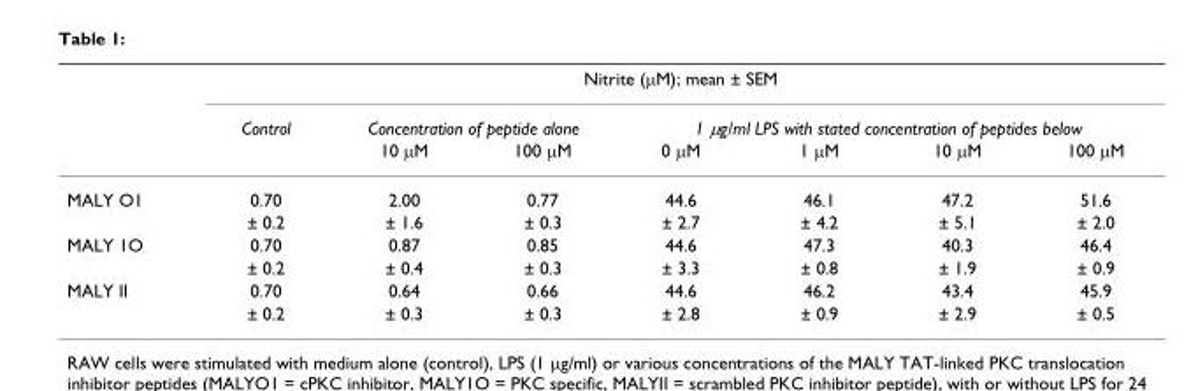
<table><thead><tr><td rowspan="3"></td><td colspan="7">Nitrite (μM); mean ± SEM</td></tr><tr><td rowspan="2">Control</td><td colspan="2">Concentration of peptide alone</td><td colspan="4">1 μg/ml LPS with stated concentration of peptides below</td></tr><tr><td>10 μM</td><td>100 μM</td><td>0 μM</td><td>1 μM</td><td>10 μM</td><td>100 μM</td></tr></thead><tbody><tr><td rowspan="2">MALY O1</td><td>0.70</td><td>2.00</td><td>0.77</td><td>44.6</td><td>46.1</td><td>47.2</td><td>51.6</td></tr><tr><td>± 0.2</td><td>± 1.6</td><td>± 0.3</td><td>± 2.7</td><td>± 4.2</td><td>± 5.1</td><td>± 2.0</td></tr><tr><td rowspan="2">MALY 1O</td><td>0.70</td><td>0.87</td><td>0.85</td><td>44.6</td><td>47.3</td><td>40.3</td><td>46.4</td></tr><tr><td>± 0.2</td><td>± 0.4</td><td>± 0.3</td><td>± 3.3</td><td>± 0.8</td><td>± 1.9</td><td>± 0.9</td></tr><tr><td rowspan="2">MALY II</td><td>0.70</td><td>0.64</td><td>0.66</td><td>44.6</td><td>46.2</td><td>43.4</td><td>45.9</td></tr><tr><td>± 0.2</td><td>± 0.3</td><td>± 0.3</td><td>± 2.8</td><td>± 0.9</td><td>± 2.9</td><td>± 0.5</td></tr></tbody></table>